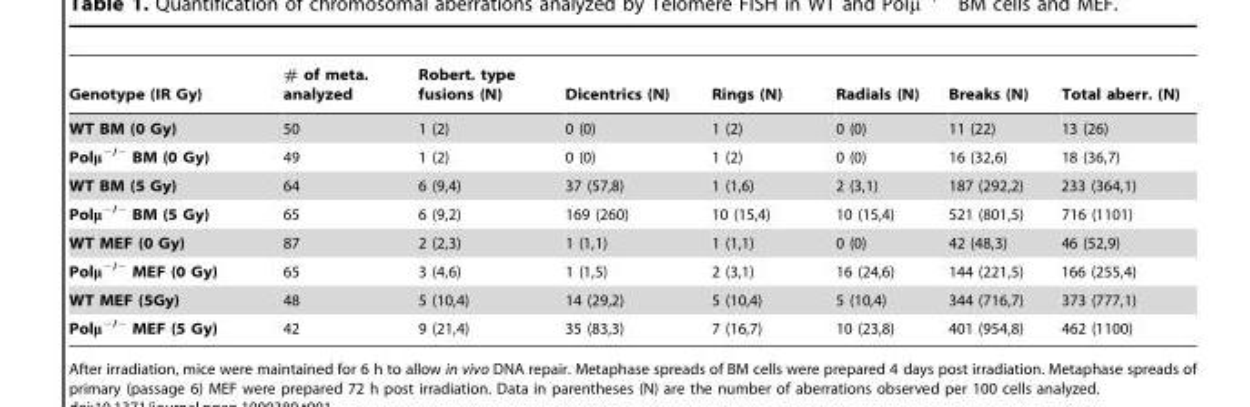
<table><thead><tr><td>Genotype (IR Gy)</td><td># of meta. analyzed</td><td>Robert. type fusions (N)</td><td>Dicentrics (N)</td><td>Rings (N)</td><td>Radials (N)</td><td>Breaks (N)</td><td>Total aberr. (N)</td></tr></thead><tbody><tr><td>WT BM (0 Gy)</td><td>50</td><td>1 (2)</td><td>0 (0)</td><td>1 (2)</td><td>0 (0)</td><td>11 (22)</td><td>13 (26)</td></tr><tr><td>Polμ<sup>−/−</sup> BM (0 Gy)</td><td>49</td><td>1 (2)</td><td>0 (0)</td><td>1 (2)</td><td>0 (0)</td><td>16 (32,6)</td><td>18 (36,7)</td></tr><tr><td>WT BM (5 Gy)</td><td>64</td><td>6 (9,4)</td><td>37 (57,8)</td><td>1 (1,6)</td><td>2 (3,1)</td><td>187 (292,2)</td><td>233 (364,1)</td></tr><tr><td>Polμ<sup>−/−</sup> BM (5 Gy)</td><td>65</td><td>6 (9,2)</td><td>169 (260)</td><td>10 (15,4)</td><td>10 (15,4)</td><td>521 (801,5)</td><td>716 (1101)</td></tr><tr><td>WT MEF (0 Gy)</td><td>87</td><td>2 (2,3)</td><td>1 (1,1)</td><td>1 (1,1)</td><td>0 (0)</td><td>42 (48,3)</td><td>46 (52,9)</td></tr><tr><td>Polμ<sup>−/−</sup> MEF (0 Gy)</td><td>65</td><td>3 (4,6)</td><td>1 (1,5)</td><td>2 (3,1)</td><td>16 (24,6)</td><td>144 (221,5)</td><td>166 (255,4)</td></tr><tr><td>WT MEF (5Gy)</td><td>48</td><td>5 (10,4)</td><td>14 (29,2)</td><td>5 (10,4)</td><td>5 (10,4)</td><td>344 (716,7)</td><td>373 (777,1)</td></tr><tr><td>Polμ<sup>−/−</sup> MEF (5 Gy)</td><td>42</td><td>9 (21,4)</td><td>35 (83,3)</td><td>7 (16,7)</td><td>10 (23,8)</td><td>401 (954,8)</td><td>462 (1100)</td></tr></tbody></table>